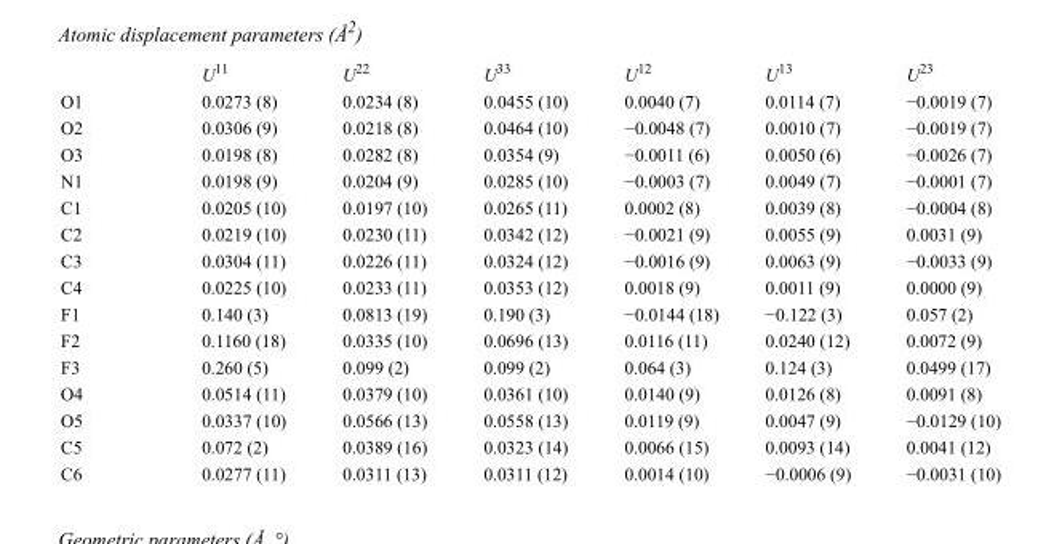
<table><thead><tr><td></td><td>U<sup>11</sup></td><td>U<sup>22</sup></td><td>U<sup>33</sup></td><td>U<sup>12</sup></td><td>U<sup>13</sup></td><td>U<sup>23</sup></td></tr></thead><tbody><tr><td>O1</td><td>0.0273 (8)</td><td>0.0234 (8)</td><td>0.0455 (10)</td><td>0.0040 (7)</td><td>0.0114 (7)</td><td>−0.0019 (7)</td></tr><tr><td>O2</td><td>0.0306 (9)</td><td>0.0218 (8)</td><td>0.0464 (10)</td><td>−0.0048 (7)</td><td>0.0010 (7)</td><td>−0.0019 (7)</td></tr><tr><td>O3</td><td>0.0198 (8)</td><td>0.0282 (8)</td><td>0.0354 (9)</td><td>−0.0011 (6)</td><td>0.0050 (6)</td><td>−0.0026 (7)</td></tr><tr><td>N1</td><td>0.0198 (9)</td><td>0.0204 (9)</td><td>0.0285 (10)</td><td>−0.0003 (7)</td><td>0.0049 (7)</td><td>−0.0001 (7)</td></tr><tr><td>C1</td><td>0.0205 (10)</td><td>0.0197 (10)</td><td>0.0265 (11)</td><td>0.0002 (8)</td><td>0.0039 (8)</td><td>−0.0004 (8)</td></tr><tr><td>C2</td><td>0.0219 (10)</td><td>0.0230 (11)</td><td>0.0342 (12)</td><td>−0.0021 (9)</td><td>0.0055 (9)</td><td>0.0031 (9)</td></tr><tr><td>C3</td><td>0.0304 (11)</td><td>0.0226 (11)</td><td>0.0324 (12)</td><td>−0.0016 (9)</td><td>0.0063 (9)</td><td>−0.0033 (9)</td></tr><tr><td>C4</td><td>0.0225 (10)</td><td>0.0233 (11)</td><td>0.0353 (12)</td><td>0.0018 (9)</td><td>0.0011 (9)</td><td>0.0000 (9)</td></tr><tr><td>F1</td><td>0.140 (3)</td><td>0.0813 (19)</td><td>0.190 (3)</td><td>−0.0144 (18)</td><td>−0.122 (3)</td><td>0.057 (2)</td></tr><tr><td>F2</td><td>0.1160 (18)</td><td>0.0335 (10)</td><td>0.0696 (13)</td><td>0.0116 (11)</td><td>0.0240 (12)</td><td>0.0072 (9)</td></tr><tr><td>F3</td><td>0.260 (5)</td><td>0.099 (2)</td><td>0.099 (2)</td><td>0.064 (3)</td><td>0.124 (3)</td><td>0.0499 (17)</td></tr><tr><td>O4</td><td>0.0514 (11)</td><td>0.0379 (10)</td><td>0.0361 (10)</td><td>0.0140 (9)</td><td>0.0126 (8)</td><td>0.0091 (8)</td></tr><tr><td>O5</td><td>0.0337 (10)</td><td>0.0566 (13)</td><td>0.0558 (13)</td><td>0.0119 (9)</td><td>0.0047 (9)</td><td>−0.0129 (10)</td></tr><tr><td>C5</td><td>0.072 (2)</td><td>0.0389 (16)</td><td>0.0323 (14)</td><td>0.0066 (15)</td><td>0.0093 (14)</td><td>0.0041 (12)</td></tr><tr><td>C6</td><td>0.0277 (11)</td><td>0.0311 (13)</td><td>0.0311 (12)</td><td>0.0014 (10)</td><td>−0.0006 (9)</td><td>−0.0031 (10)</td></tr></tbody></table>